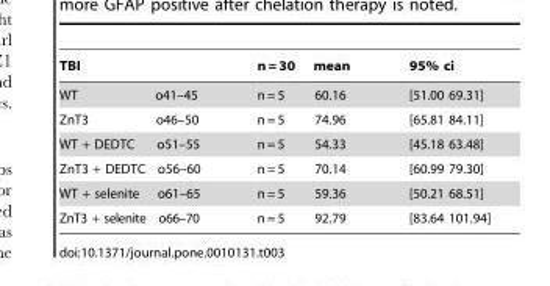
<table><thead><tr><td>TBI</td><td>n = 30 mean</td><td>95% ci</td></tr></thead><tbody><tr><td>WT o41–45</td><td>n = 5 60.16</td><td>[51.00 69.31]</td></tr><tr><td>ZnT3 o46–50</td><td>n = 5 74.96</td><td>[65.81 84.11]</td></tr><tr><td>WT + DEDTC o51–55</td><td>n = 5 54.33</td><td>[45.18 63.48]</td></tr><tr><td>ZnT3 + DEDTC o56–60</td><td>n = 5 70.14</td><td>[60.99 79.30]</td></tr><tr><td>WT + selenite o61–65</td><td>n = 5 59.36</td><td>[50.21 68.51]</td></tr><tr><td>ZnT3 + selenite o66–70</td><td>n = 5 92.79</td><td>[83.64 101.94]</td></tr></tbody></table>